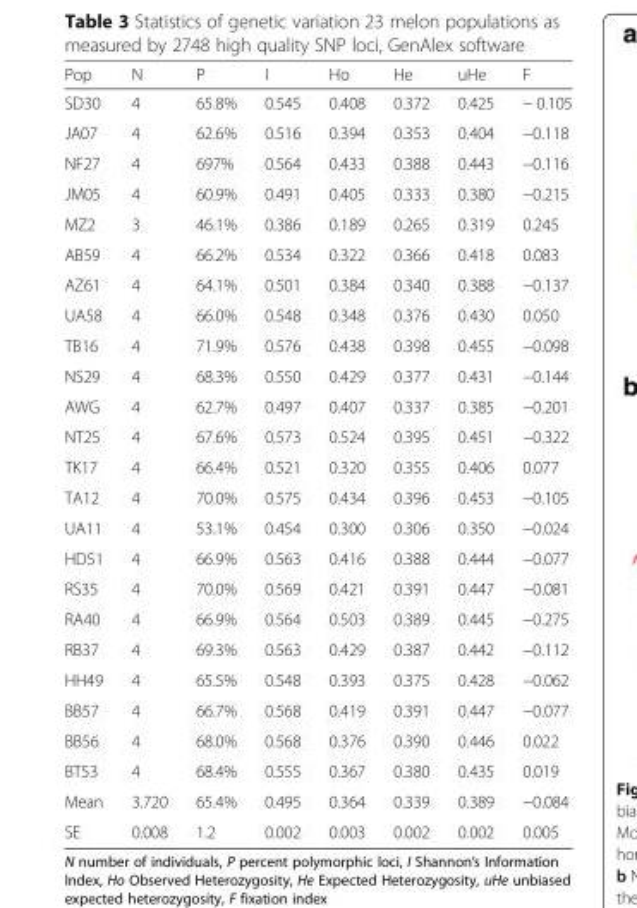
<table><thead><tr><td>Pop</td><td>N</td><td>P</td><td>I</td><td>Ho</td><td>He</td><td>uHe</td><td>F</td></tr></thead><tbody><tr><td>SD30</td><td>4</td><td>65.8%</td><td>0.545</td><td>0.408</td><td>0.372</td><td>0.425</td><td>− 0.105</td></tr><tr><td>JA07</td><td>4</td><td>62.6%</td><td>0.516</td><td>0.394</td><td>0.353</td><td>0.404</td><td>−0.118</td></tr><tr><td>NF27</td><td>4</td><td>697%</td><td>0.564</td><td>0.433</td><td>0.388</td><td>0.443</td><td>−0.116</td></tr><tr><td>JM05</td><td>4</td><td>60.9%</td><td>0.491</td><td>0.405</td><td>0.333</td><td>0.380</td><td>−0.215</td></tr><tr><td>MZ2</td><td>3</td><td>46.1%</td><td>0.386</td><td>0.189</td><td>0.265</td><td>0.319</td><td>0.245</td></tr><tr><td>AB59</td><td>4</td><td>66.2%</td><td>0.534</td><td>0.322</td><td>0.366</td><td>0.418</td><td>0.083</td></tr><tr><td>AZ61</td><td>4</td><td>64.1%</td><td>0.501</td><td>0.384</td><td>0.340</td><td>0.388</td><td>−0.137</td></tr><tr><td>UA58</td><td>4</td><td>66.0%</td><td>0.548</td><td>0.348</td><td>0.376</td><td>0.430</td><td>0.050</td></tr><tr><td>TB16</td><td>4</td><td>71.9%</td><td>0.576</td><td>0.438</td><td>0.398</td><td>0.455</td><td>−0.098</td></tr><tr><td>NS29</td><td>4</td><td>68.3%</td><td>0.550</td><td>0.429</td><td>0.377</td><td>0.431</td><td>−0.144</td></tr><tr><td>AWG</td><td>4</td><td>62.7%</td><td>0.497</td><td>0.407</td><td>0.337</td><td>0.385</td><td>−0.201</td></tr><tr><td>NT25</td><td>4</td><td>67.6%</td><td>0.573</td><td>0.524</td><td>0.395</td><td>0.451</td><td>−0.322</td></tr><tr><td>TK17</td><td>4</td><td>66.4%</td><td>0.521</td><td>0.320</td><td>0.355</td><td>0.406</td><td>0.077</td></tr><tr><td>TA12</td><td>4</td><td>70.0%</td><td>0.575</td><td>0.434</td><td>0.396</td><td>0.453</td><td>−0.105</td></tr><tr><td>UA11</td><td>4</td><td>53.1%</td><td>0.454</td><td>0.300</td><td>0.306</td><td>0.350</td><td>−0.024</td></tr><tr><td>HD51</td><td>4</td><td>66.9%</td><td>0.563</td><td>0.416</td><td>0.388</td><td>0.444</td><td>−0.077</td></tr><tr><td>RS35</td><td>4</td><td>70.0%</td><td>0.569</td><td>0.421</td><td>0.391</td><td>0.447</td><td>−0.081</td></tr><tr><td>RA40</td><td>4</td><td>66.9%</td><td>0.564</td><td>0.503</td><td>0.389</td><td>0.445</td><td>−0.275</td></tr><tr><td>RB37</td><td>4</td><td>69.3%</td><td>0.563</td><td>0.429</td><td>0.387</td><td>0.442</td><td>−0.112</td></tr><tr><td>HH49</td><td>4</td><td>65.5%</td><td>0.548</td><td>0.393</td><td>0.375</td><td>0.428</td><td>−0.062</td></tr><tr><td>BB57</td><td>4</td><td>66.7%</td><td>0.568</td><td>0.419</td><td>0.391</td><td>0.447</td><td>−0.077</td></tr><tr><td>BB56</td><td>4</td><td>68.0%</td><td>0.568</td><td>0.376</td><td>0.390</td><td>0.446</td><td>0.022</td></tr><tr><td>BT53</td><td>4</td><td>68.4%</td><td>0.555</td><td>0.367</td><td>0.380</td><td>0.435</td><td>0.019</td></tr><tr><td>Mean</td><td>3.720</td><td>65.4%</td><td>0.495</td><td>0.364</td><td>0.339</td><td>0.389</td><td>−0.084</td></tr><tr><td>SE</td><td>0.008</td><td>1.2</td><td>0.002</td><td>0.003</td><td>0.002</td><td>0.002</td><td>0.005</td></tr></tbody></table>